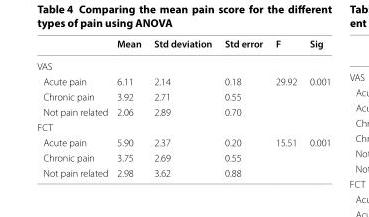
<table><thead><tr><td></td><td>Mean</td><td>Std deviation</td><td>Std error</td><td>F</td><td>Sig</td></tr></thead><tbody><tr><td colspan="6">VAS</td></tr><tr><td>Acute pain</td><td>6.11</td><td>2.14</td><td>0.18</td><td>29.92</td><td>0.001</td></tr><tr><td>Chronic pain</td><td>3.92</td><td>2.71</td><td>0.55</td><td></td><td></td></tr><tr><td>Not pain related</td><td>2.06</td><td>2.89</td><td>0.70</td><td></td><td></td></tr><tr><td colspan="6">FCT</td></tr><tr><td>Acute pain</td><td>5.90</td><td>2.37</td><td>0.20</td><td>15.51</td><td>0.001</td></tr><tr><td>Chronic pain</td><td>3.75</td><td>2.69</td><td>0.55</td><td></td><td></td></tr><tr><td>Not pain related</td><td>2.98</td><td>3.62</td><td>0.88</td><td></td><td></td></tr></tbody></table>